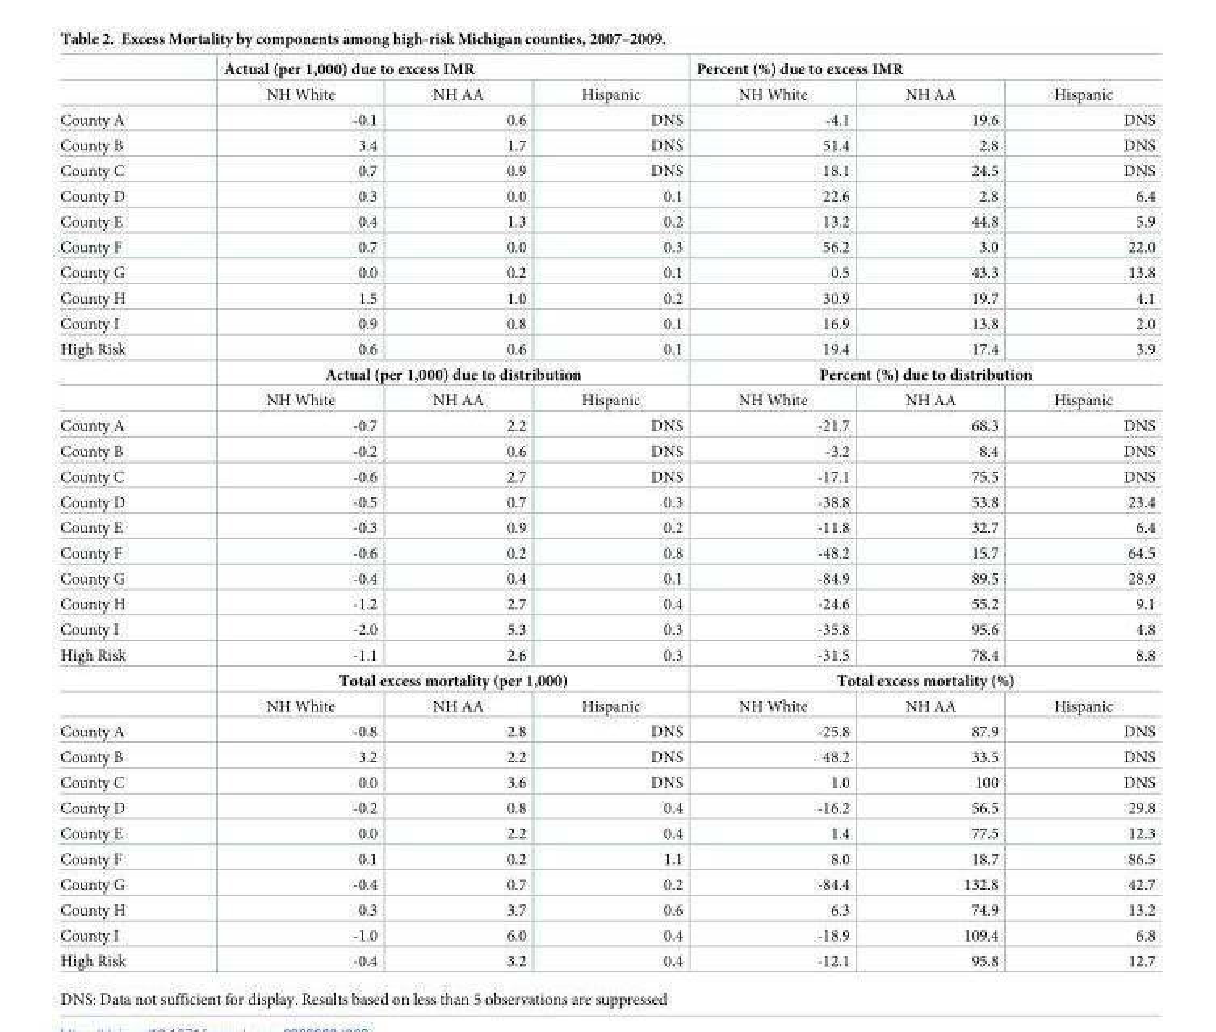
<table><thead><tr><td rowspan="2"></td><td colspan="3">Actual (per 1,000) due to excess IMR</td><td colspan="3">Percent (%) due to excess IMR</td></tr><tr><td>NH White</td><td>NH AA</td><td>Hispanic</td><td>NH White</td><td>NH AA</td><td>Hispanic</td></tr></thead><tbody><tr><td>County A</td><td>-0.1</td><td>0.6</td><td>DNS</td><td>-4.1</td><td>19.6</td><td>DNS</td></tr><tr><td>County B</td><td>3.4</td><td>1.7</td><td>DNS</td><td>51.4</td><td>2.8</td><td>DNS</td></tr><tr><td>County C</td><td>0.7</td><td>0.9</td><td>DNS</td><td>18.1</td><td>24.5</td><td>DNS</td></tr><tr><td>County D</td><td>0.3</td><td>0.0</td><td>0.1</td><td>22.6</td><td>2.8</td><td>6.4</td></tr><tr><td>County E</td><td>0.4</td><td>1.3</td><td>0.2</td><td>13.2</td><td>44.8</td><td>5.9</td></tr><tr><td>County F</td><td>0.7</td><td>0.0</td><td>0.3</td><td>56.2</td><td>3.0</td><td>22.0</td></tr><tr><td>County G</td><td>0.0</td><td>0.2</td><td>0.1</td><td>0.5</td><td>43.3</td><td>13.8</td></tr><tr><td>County H</td><td>1.5</td><td>1.0</td><td>0.2</td><td>30.9</td><td>19.7</td><td>4.1</td></tr><tr><td>County I</td><td>0.9</td><td>0.8</td><td>0.1</td><td>16.9</td><td>13.8</td><td>2.0</td></tr><tr><td rowspan="3">High Risk</td><td>0.6</td><td>0.6</td><td>0.1</td><td>19.4</td><td>17.4</td><td>3.9</td></tr><tr><td colspan="3">Actual (per 1,000) due to distribution</td><td colspan="3">Percent (%) due to distribution</td></tr><tr><td>NH White</td><td>NH AA</td><td>Hispanic</td><td>NH White</td><td>NH AA</td><td>Hispanic</td></tr><tr><td>County A</td><td>-0.7</td><td>2.2</td><td>DNS</td><td>-21.7</td><td>68.3</td><td>DNS</td></tr><tr><td>County B</td><td>-0.2</td><td>0.6</td><td>DNS</td><td>-3.2</td><td>8.4</td><td>DNS</td></tr><tr><td>County C</td><td>-0.6</td><td>2.7</td><td>DNS</td><td>-17.1</td><td>75.5</td><td>DNS</td></tr><tr><td>County D</td><td>-0.5</td><td>0.7</td><td>0.3</td><td>-38.8</td><td>53.8</td><td>23.4</td></tr><tr><td>County E</td><td>-0.3</td><td>0.9</td><td>0.2</td><td>-11.8</td><td>32.7</td><td>6.4</td></tr><tr><td>County F</td><td>-0.6</td><td>0.2</td><td>0.8</td><td>-48.2</td><td>15.7</td><td>64.5</td></tr><tr><td>County G</td><td>-0.4</td><td>0.4</td><td>0.1</td><td>-84.9</td><td>89.5</td><td>28.9</td></tr><tr><td>County H</td><td>-1.2</td><td>2.7</td><td>0.4</td><td>-24.6</td><td>55.2</td><td>9.1</td></tr><tr><td>County I</td><td>-2.0</td><td>5.3</td><td>0.3</td><td>-35.8</td><td>95.6</td><td>4.8</td></tr><tr><td rowspan="3">High Risk</td><td>-1.1</td><td>2.6</td><td>0.3</td><td>-31.5</td><td>78.4</td><td>8.8</td></tr><tr><td colspan="3">Total excess mortality (per 1,000)</td><td colspan="3">Total excess mortality (%)</td></tr><tr><td>NH White</td><td>NH AA</td><td>Hispanic</td><td>NH White</td><td>NH AA</td><td>Hispanic</td></tr><tr><td>County A</td><td>-0.8</td><td>2.8</td><td>DNS</td><td>-25.8</td><td>87.9</td><td>DNS</td></tr><tr><td>County B</td><td>3.2</td><td>2.2</td><td>DNS</td><td>48.2</td><td>33.5</td><td>DNS</td></tr><tr><td>County C</td><td>0.0</td><td>3.6</td><td>DNS</td><td>1.0</td><td>100</td><td>DNS</td></tr><tr><td>County D</td><td>-0.2</td><td>0.8</td><td>0.4</td><td>-16.2</td><td>56.5</td><td>29.8</td></tr><tr><td>County E</td><td>0.0</td><td>2.2</td><td>0.4</td><td>1.4</td><td>77.5</td><td>12.3</td></tr><tr><td>County F</td><td>0.1</td><td>0.2</td><td>1.1</td><td>8.0</td><td>18.7</td><td>86.5</td></tr><tr><td>County G</td><td>-0.4</td><td>0.7</td><td>0.2</td><td>-84.4</td><td>132.8</td><td>42.7</td></tr><tr><td>County H</td><td>0.3</td><td>3.7</td><td>0.6</td><td>6.3</td><td>74.9</td><td>13.2</td></tr><tr><td>County I</td><td>-1.0</td><td>6.0</td><td>0.4</td><td>-18.9</td><td>109.4</td><td>6.8</td></tr><tr><td>High Risk</td><td>-0.4</td><td>3.2</td><td>0.4</td><td>-12.1</td><td>95.8</td><td>12.7</td></tr></tbody></table>